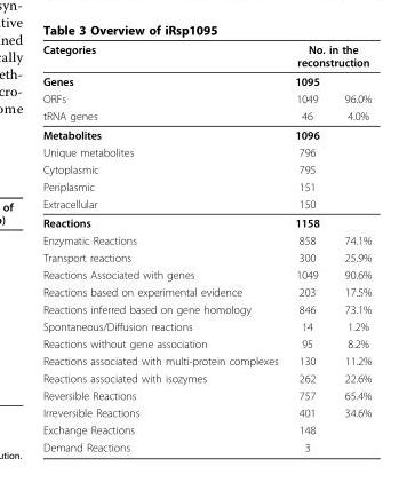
<table><thead><tr><td rowspan="2">Categories Genes</td><td colspan="2">No. in the reconstruction</td></tr><tr><td>1095</td><td></td></tr></thead><tbody><tr><td>ORFs</td><td>1049</td><td>96.0%</td></tr><tr><td>tRNA genes</td><td>46</td><td>4.0%</td></tr><tr><td>Metabolites</td><td>1096</td><td></td></tr><tr><td>Unique metabolites</td><td>796</td><td></td></tr><tr><td>Cytoplasmic</td><td>795</td><td></td></tr><tr><td>Periplasmic</td><td>151</td><td></td></tr><tr><td>Extracellular</td><td>150</td><td></td></tr><tr><td>Reactions</td><td>1158</td><td></td></tr><tr><td>Enzymatic Reactions</td><td>858</td><td>74.1%</td></tr><tr><td>Transport reactions</td><td>300</td><td>25.9%</td></tr><tr><td>Reactions Associated with genes</td><td>1049</td><td>90.6%</td></tr><tr><td>Reactions based on experimental evidence</td><td>203</td><td>17.5%</td></tr><tr><td>Reactions inferred based on gene homology</td><td>846</td><td>73.1%</td></tr><tr><td>Spontaneous/Diffusion reactions</td><td>14</td><td>1.2%</td></tr><tr><td>Reactions without gene association</td><td>95</td><td>8.2%</td></tr><tr><td>Reactions associated with multi-protein complexes</td><td>130</td><td>11.2%</td></tr><tr><td>Reactions associated with isozymes</td><td>262</td><td>22.6%</td></tr><tr><td>Reversible Reactions</td><td>757</td><td>65.4%</td></tr><tr><td>Irreversible Reactions</td><td>401</td><td>34.6%</td></tr><tr><td>Exchange Reactions</td><td>148</td><td></td></tr><tr><td>Demand Reactions</td><td>3</td><td></td></tr></tbody></table>